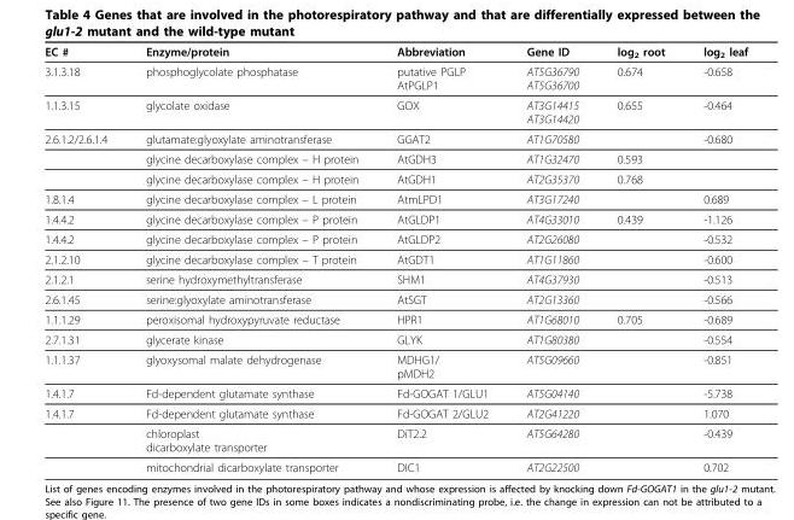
<table><thead><tr><td>EC #</td><td>Enzyme/protein</td><td>Abbreviation</td><td>Gene ID</td><td>log2 root</td><td>log2 leaf</td></tr></thead><tbody><tr><td>3.1.3.18</td><td>phosphoglycolate phosphatase</td><td>putative PGLP AtPGLP1</td><td>AT5G36790 AT5G36700</td><td>0.674</td><td>-0.658</td></tr><tr><td>1.1.3.15</td><td>glycolate oxidase</td><td>GOX</td><td>AT3G14415 AT3G14420</td><td>0.655</td><td>-0.464</td></tr><tr><td rowspan="3">2.6.1.2/2.6.1.4</td><td>glutamate:glyoxylate aminotransferase</td><td>GGAT2</td><td>AT1G70580</td><td></td><td>-0.680</td></tr><tr><td>glycine decarboxylase complex – H protein</td><td>AtGDH3</td><td>AT1G32470</td><td>0.593</td><td></td></tr><tr><td>glycine decarboxylase complex – H protein</td><td>AtGDH1</td><td>AT2G35370</td><td>0.768</td><td></td></tr><tr><td>1.8.1.4</td><td>glycine decarboxylase complex – L protein</td><td>AtmLPD1</td><td>AT3G17240</td><td></td><td>0.689</td></tr><tr><td>1.4.4.2</td><td>glycine decarboxylase complex – P protein</td><td>AtGLDP1</td><td>AT4G33010</td><td>0.439</td><td>-1.126</td></tr><tr><td>1.4.4.2</td><td>glycine decarboxylase complex – P protein</td><td>AtGLDP2</td><td>AT2G26080</td><td></td><td>-0.532</td></tr><tr><td>2.1.2.10</td><td>glycine decarboxylase complex – T protein</td><td>AtGDT1</td><td>AT1G11860</td><td></td><td>-0.600</td></tr><tr><td>2.1.2.1</td><td>serine hydroxymethyltransferase</td><td>SHM1</td><td>AT4G37930</td><td></td><td>-0.513</td></tr><tr><td>2.6.1.45</td><td>serine:glyoxylate aminotransferase</td><td>AtSGT</td><td>AT2G13360</td><td></td><td>-0.566</td></tr><tr><td>1.1.1.29</td><td>peroxisomal hydroxypyruvate reductase</td><td>HPR1</td><td>AT1G68010</td><td>0.705</td><td>-0.689</td></tr><tr><td>2.7.1.31</td><td>glycerate kinase</td><td>GLYK</td><td>AT1G80380</td><td></td><td>-0.554</td></tr><tr><td>1.1.1.37</td><td>glyoxysomal malate dehydrogenase</td><td>MDHG1/ pMDH2</td><td>AT5G09660</td><td></td><td>-0.851</td></tr><tr><td>1.4.1.7</td><td>Fd-dependent glutamate synthase</td><td>Fd-GOGAT 1/GLU1</td><td>AT5G04140</td><td></td><td>-5.738</td></tr><tr><td rowspan="3">1.4.1.7</td><td>Fd-dependent glutamate synthase</td><td>Fd-GOGAT 2/GLU2</td><td>AT2G41220</td><td></td><td>1.070</td></tr><tr><td>chloroplast dicarboxylate transporter</td><td>DiT2.2</td><td>AT5G64280</td><td></td><td>-0.439</td></tr><tr><td>mitochondrial dicarboxylate transporter</td><td>DIC1</td><td>AT2G22500</td><td></td><td>0.702</td></tr></tbody></table>